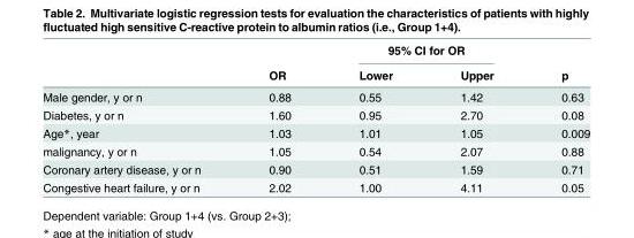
<table><thead><tr><td rowspan="2"></td><td rowspan="2">OR</td><td colspan="2">95% CI for OR</td><td rowspan="2">p</td></tr><tr><td>Lower</td><td>Upper</td></tr></thead><tbody><tr><td>Male gender, y or n</td><td>0.88</td><td>0.55</td><td>1.42</td><td>0.63</td></tr><tr><td>Diabetes, y or n</td><td>1.60</td><td>0.95</td><td>2.70</td><td>0.08</td></tr><tr><td>Age*, year</td><td>1.03</td><td>1.01</td><td>1.05</td><td>0.009</td></tr><tr><td>malignancy, y or n</td><td>1.05</td><td>0.54</td><td>2.07</td><td>0.88</td></tr><tr><td>Coronary artery disease, y or n</td><td>0.90</td><td>0.51</td><td>1.59</td><td>0.71</td></tr><tr><td>Congestive heart failure, y or n</td><td>2.02</td><td>1.00</td><td>4.11</td><td>0.05</td></tr></tbody></table>